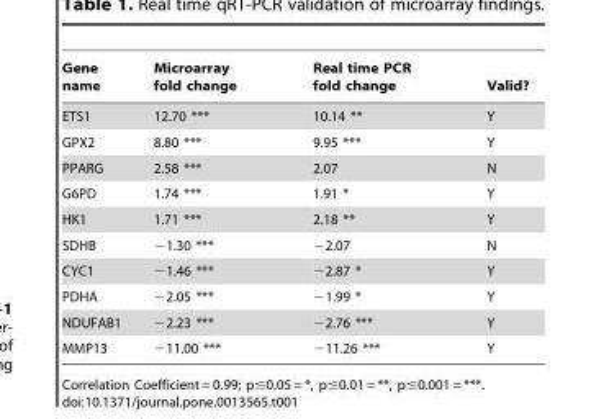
<table><thead><tr><td>Gene name</td><td>Microarray fold change</td><td>Real time PCR fold change</td><td>Valid?</td></tr></thead><tbody><tr><td>ETS1</td><td>12.70 ***</td><td>10.14 **</td><td>Y</td></tr><tr><td>GPX2</td><td>8.80 ***</td><td>9.95 ***</td><td>Y</td></tr><tr><td>PPARG</td><td>2.58 ***</td><td>2.07</td><td>N</td></tr><tr><td>G6PD</td><td>1.74 ***</td><td>1.91 *</td><td>Y</td></tr><tr><td>HK1</td><td>1.71 ***</td><td>2.18 **</td><td>Y</td></tr><tr><td>SDHB</td><td>−1.30 ***</td><td>−2.07</td><td>N</td></tr><tr><td>CYC1</td><td>−1.46 ***</td><td>−2.87 *</td><td>Y</td></tr><tr><td>PDHA</td><td>−2.05 ***</td><td>−1.99 *</td><td>Y</td></tr><tr><td>NDUFAB1</td><td>−2.23 ***</td><td>−2.76 ***</td><td>Y</td></tr><tr><td>MMP13</td><td>−11.00 ***</td><td>−11.26 ***</td><td>Y</td></tr></tbody></table>